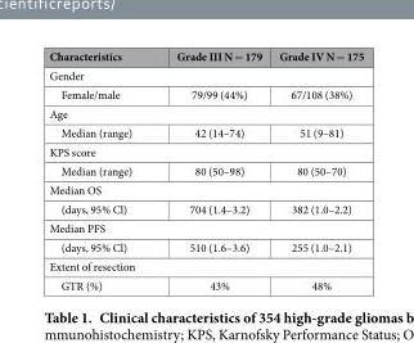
<table><thead><tr><td>Characteristics</td><td>Grade III N = 179</td><td>Grade IV N = 175</td></tr></thead><tbody><tr><td colspan="3">Gender</td></tr><tr><td>Female/male</td><td>79/99 (44%)</td><td>67/108 (38%)</td></tr><tr><td colspan="3">Age</td></tr><tr><td>Median (range)</td><td>42 (14–74)</td><td>51 (9–81)</td></tr><tr><td colspan="3">KPS score</td></tr><tr><td>Median (range)</td><td>80 (50–98)</td><td>80 (50–70)</td></tr><tr><td colspan="3">Median OS</td></tr><tr><td>(days, 95% Cl)</td><td>704 (1.4–3.2)</td><td>382 (1.0–2.2)</td></tr><tr><td colspan="3">Median PFS</td></tr><tr><td>(days, 95% Cl)</td><td>510 (1.6–3.6)</td><td>255 (1.0–2.1)</td></tr><tr><td colspan="3">Extent of resection</td></tr><tr><td>GTR (%)</td><td>43%</td><td>48%</td></tr></tbody></table>